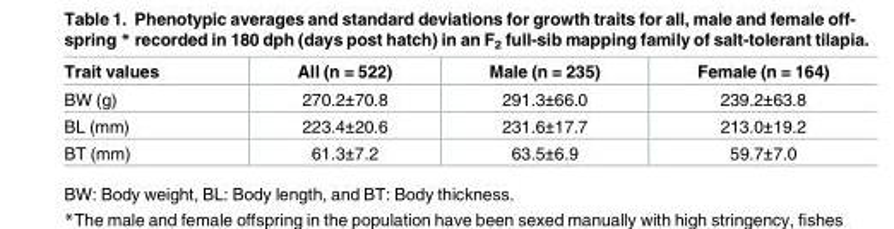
<table><thead><tr><td>Trait values</td><td>All (n = 522)</td><td>Male (n = 235)</td><td>Female (n = 164)</td></tr></thead><tbody><tr><td>BW (g)</td><td>270.2±70.8</td><td>291.3±66.0</td><td>239.2±63.8</td></tr><tr><td>BL (mm)</td><td>223.4±20.6</td><td>231.6±17.7</td><td>213.0±19.2</td></tr><tr><td>BT (mm)</td><td>61.3±7.2</td><td>63.5±6.9</td><td>59.7±7.0</td></tr></tbody></table>